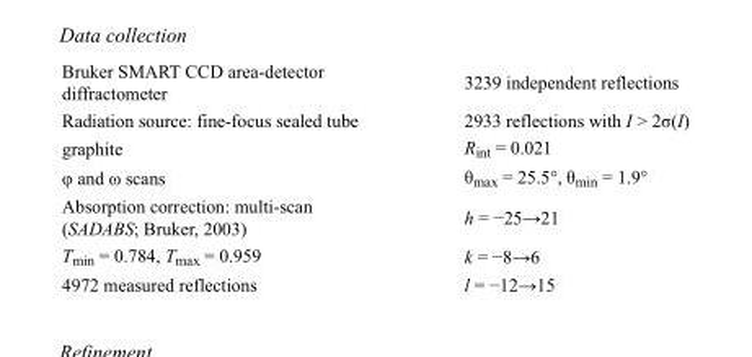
<table><tbody><tr><td>Bruker SMART CCD area-detector diffractometer</td><td>3239 independent reflections</td></tr><tr><td>Radiation source: fine-focus sealed tube</td><td>2933 reflections with I &gt; 2σ(I)</td></tr><tr><td>graphite</td><td>R<sub>int</sub> = 0.021</td></tr><tr><td>φ and ω scans</td><td>θ<sub>max</sub> = 25.5°, θ<sub>min</sub> = 1.9°</td></tr><tr><td>Absorption correction: multi-scan (SADABS; Bruker, 2003)</td><td>h = −25→21</td></tr><tr><td>T<sub>min</sub> = 0.784, T<sub>max</sub> = 0.959</td><td>k = −8→6</td></tr><tr><td>4972 measured reflections</td><td>l = −12→15</td></tr></tbody></table>